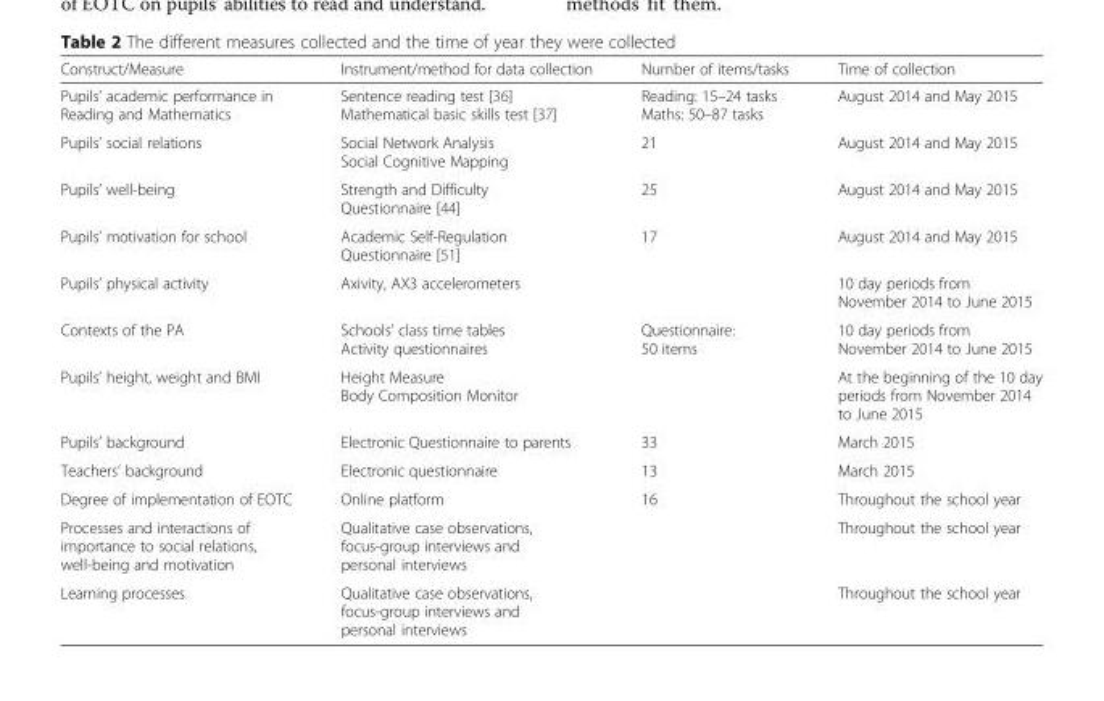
<table><thead><tr><td>Construct/Measure</td><td>Instrument/method for data collection</td><td>Number of items/tasks</td><td>Time of collection</td></tr></thead><tbody><tr><td>Pupils’ academic performance in Reading and Mathematics</td><td>Sentence reading test [36] Mathematical basic skills test [37]</td><td>Reading: 15–24 tasks Maths: 50–87 tasks</td><td>August 2014 and May 2015</td></tr><tr><td>Pupils’ social relations</td><td>Social Network Analysis Social Cognitive Mapping</td><td>21</td><td>August 2014 and May 2015</td></tr><tr><td>Pupils’ well-being</td><td>Strength and Difficulty Questionnaire [44]</td><td>25</td><td>August 2014 and May 2015</td></tr><tr><td>Pupils’ motivation for school</td><td>Academic Self-Regulation Questionnaire [51]</td><td>17</td><td>August 2014 and May 2015</td></tr><tr><td>Pupils’ physical activity</td><td>Axivity, AX3 accelerometers</td><td></td><td>10 day periods from November 2014 to June 2015</td></tr><tr><td>Contexts of the PA</td><td>Schools’ class time tables Activity questionnaires</td><td>Questionnaire: 50 items</td><td>10 day periods from November 2014 to June 2015</td></tr><tr><td>Pupils’ height, weight and BMI</td><td>Height Measure Body Composition Monitor</td><td></td><td>At the beginning of the 10 day periods from November 2014 to June 2015</td></tr><tr><td>Pupils’ background</td><td>Electronic Questionnaire to parents</td><td>33</td><td>March 2015</td></tr><tr><td>Teachers’ background</td><td>Electronic questionnaire</td><td>13</td><td>March 2015</td></tr><tr><td>Degree of implementation of EOTC</td><td>Online platform</td><td>16</td><td>Throughout the school year</td></tr><tr><td>Processes and interactions of importance to social relations, well-being and motivation</td><td>Qualitative case observations, focus-group interviews and personal interviews</td><td></td><td>Throughout the school year</td></tr><tr><td>Learning processes</td><td>Qualitative case observations, focus-group interviews and personal interviews</td><td></td><td>Throughout the school year</td></tr></tbody></table>